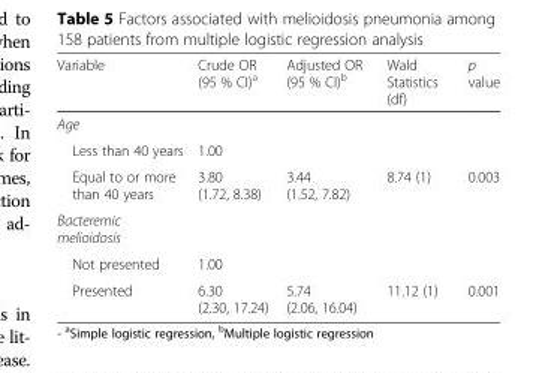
<table><thead><tr><td>Variable</td><td>Crude OR (95 % CI)<sup>a</sup></td><td>Adjusted OR (95 % CI)<sup>b</sup></td><td>Wald Statistics (df)</td><td>p value</td></tr></thead><tbody><tr><td colspan="5">Age</td></tr><tr><td>Less than 40 years</td><td>1.00</td><td></td><td></td><td></td></tr><tr><td>Equal to or more than 40 years</td><td>3.80 (1.72, 8.38)</td><td>3.44 (1.52, 7.82)</td><td>8.74 (1)</td><td>0.003</td></tr><tr><td colspan="5">Bacteremic melioidosis</td></tr><tr><td>Not presented</td><td>1.00</td><td></td><td></td><td></td></tr><tr><td>Presented</td><td>6.30 (2.30, 17.24)</td><td>5.74 (2.06, 16.04)</td><td>11.12 (1)</td><td>0.001</td></tr></tbody></table>